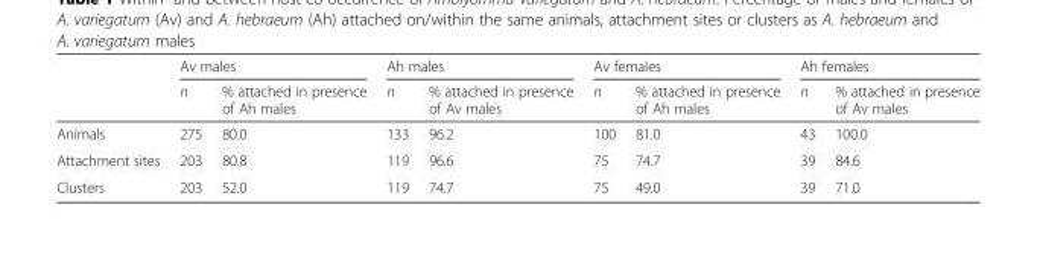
<table><thead><tr><td rowspan="2"></td><td colspan="2">Av males</td><td colspan="2">Ah males</td><td colspan="2">Av females</td><td colspan="2">Ah females</td></tr><tr><td>n</td><td>% attached in presence of Ah males</td><td>n</td><td>% attached in presence of Av males</td><td>n</td><td>% attached in presence of Ah males</td><td>n</td><td>% attached in presence of Av males</td></tr></thead><tbody><tr><td>Animals</td><td>275</td><td>80.0</td><td>133</td><td>96.2</td><td>100</td><td>81.0</td><td>43</td><td>100.0</td></tr><tr><td>Attachment sites</td><td>203</td><td>80.8</td><td>119</td><td>96.6</td><td>75</td><td>74.7</td><td>39</td><td>84.6</td></tr><tr><td>Clusters</td><td>203</td><td>52.0</td><td>119</td><td>74.7</td><td>75</td><td>49.0</td><td>39</td><td>71.0</td></tr></tbody></table>